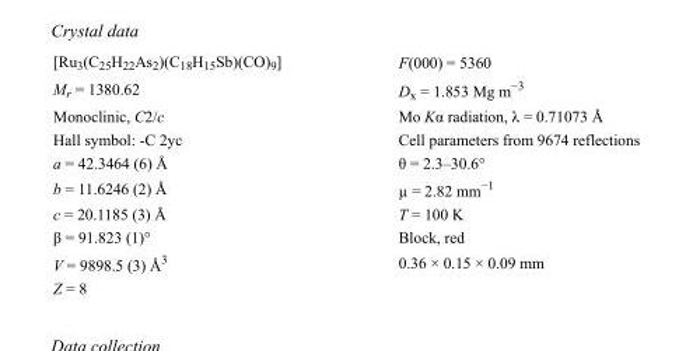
<table><tbody><tr><td>[Ru<sub>3</sub>(C<sub>25</sub>H<sub>22</sub>As<sub>2</sub>)(C<sub>18</sub>H<sub>15</sub>Sb)(CO)<sub>9</sub>]</td><td>F(000) = 5360</td></tr><tr><td>M<sub>r</sub> = 1380.62</td><td>D<sub>x</sub> = 1.853 Mg m<sup>−3</sup></td></tr><tr><td>Monoclinic, C2/c</td><td>Mo Kα radiation, λ = 0.71073 Å</td></tr><tr><td>Hall symbol: -C 2yc</td><td>Cell parameters from 9674 reflections</td></tr><tr><td>a = 42.3464 (6) Å</td><td>θ = 2.3–30.6°</td></tr><tr><td>b = 11.6246 (2) Å</td><td>µ = 2.82 mm<sup>−1</sup></td></tr><tr><td>c = 20.1185 (3) Å</td><td>T = 100 K</td></tr><tr><td>β = 91.823 (1)°</td><td>Block, red</td></tr><tr><td>V = 9898.5 (3) Å<sup>3</sup></td><td>0.36 × 0.15 × 0.09 mm</td></tr><tr><td>Z = 8</td><td></td></tr></tbody></table>